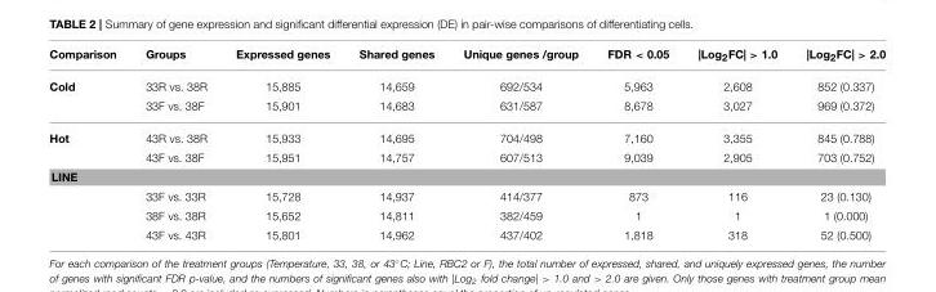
<table><thead><tr><td>Comparison</td><td>Groups</td><td>Expressed genes</td><td>Shared genes</td><td>Unique genes /group</td><td>FDR &lt; 0.05</td><td>|Log<sub>2</sub>FC| &gt; 1.0</td><td>|Log<sub>2</sub>FC| &gt; 2.0</td></tr></thead><tbody><tr><td rowspan="2">Cold</td><td>33R vs. 38R</td><td>15,885</td><td>14,659</td><td>692/534</td><td>5,963</td><td>2,608</td><td>852 (0.337)</td></tr><tr><td>33F vs. 38F</td><td>15,901</td><td>14,683</td><td>631/587</td><td>8,678</td><td>3,027</td><td>969 (0.372)</td></tr><tr><td rowspan="2">Hot</td><td>43R vs. 38R</td><td>15,933</td><td>14,695</td><td>704/498</td><td>7,160</td><td>3,355</td><td>845 (0.788)</td></tr><tr><td>43F vs. 38F</td><td>15,951</td><td>14,757</td><td>607/513</td><td>9,039</td><td>2,905</td><td>703 (0.752)</td></tr><tr><td colspan="8">LINE</td></tr><tr><td></td><td>33F vs. 33R</td><td>15,728</td><td>14,937</td><td>414/377</td><td>873</td><td>116</td><td>23 (0.130)</td></tr><tr><td></td><td>38F vs. 38R</td><td>15,652</td><td>14,811</td><td>382/459</td><td>1</td><td>1</td><td>1 (0.000)</td></tr><tr><td></td><td>43F vs. 43R</td><td>15,801</td><td>14,962</td><td>437/402</td><td>1,818</td><td>318</td><td>52 (0.500)</td></tr></tbody></table>